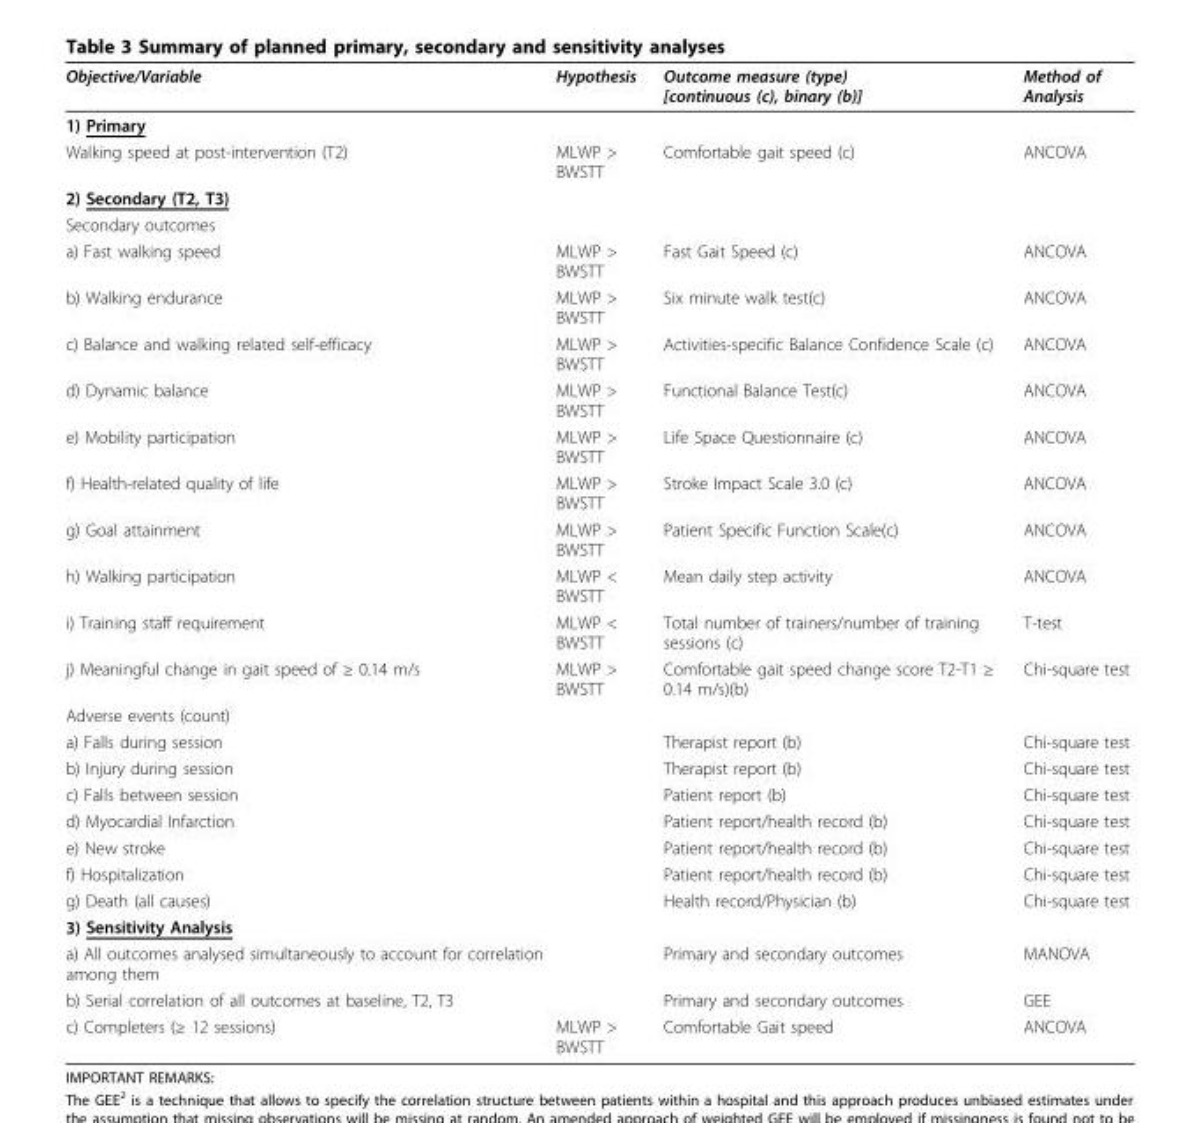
<table><thead><tr><td>Objective/Variable</td><td>Hypothesis</td><td>Outcome measure (type) [continuous (c), binary (b)]</td><td>Method of Analysis</td></tr></thead><tbody><tr><td colspan="4">1) Primary</td></tr><tr><td>Walking speed at post-intervention (T2)</td><td>MLWP &gt; BWSTT</td><td>Comfortable gait speed (c)</td><td>ANCOVA</td></tr><tr><td colspan="4">2) Secondary (T2, T3)</td></tr><tr><td colspan="4">Secondary outcomes</td></tr><tr><td>a) Fast walking speed</td><td>MLWP &gt; BWSTT</td><td>Fast Gait Speed (c)</td><td>ANCOVA</td></tr><tr><td>b) Walking endurance</td><td>MLWP &gt; BWSTT</td><td>Six minute walk test(c)</td><td>ANCOVA</td></tr><tr><td>c) Balance and walking related self-efficacy</td><td>MLWP &gt; BWSTT</td><td>Activities-specific Balance Confidence Scale (c)</td><td>ANCOVA</td></tr><tr><td>d) Dynamic balance</td><td>MLWP &gt; BWSTT</td><td>Functional Balance Test(c)</td><td>ANCOVA</td></tr><tr><td>e) Mobility participation</td><td>MLWP &gt; BWSTT</td><td>Life Space Questionnaire (c)</td><td>ANCOVA</td></tr><tr><td>f) Health-related quality of life</td><td>MLWP &gt; BWSTT</td><td>Stroke Impact Scale 3.0 (c)</td><td>ANCOVA</td></tr><tr><td>g) Goal attainment</td><td>MLWP &gt; BWSTT</td><td>Patient Specific Function Scale(c)</td><td>ANCOVA</td></tr><tr><td>h) Walking participation</td><td>MLWP &lt; BWSTT</td><td>Mean daily step activity</td><td>ANCOVA</td></tr><tr><td>i) Training staff requirement</td><td>MLWP &lt; BWSTT</td><td>Total number of trainers/number of training sessions (c)</td><td>T-test</td></tr><tr><td>j) Meaningful change in gait speed of ≥ 0.14 m/s</td><td>MLWP &gt; BWSTT</td><td>Comfortable gait speed change score T2-T1 ≥ 0.14 m/s)(b)</td><td>Chi-square test</td></tr><tr><td colspan="4">Adverse events (count)</td></tr><tr><td>a) Falls during session</td><td></td><td>Therapist report (b)</td><td>Chi-square test</td></tr><tr><td>b) Injury during session</td><td></td><td>Therapist report (b)</td><td>Chi-square test</td></tr><tr><td>c) Falls between session</td><td></td><td>Patient report (b)</td><td>Chi-square test</td></tr><tr><td>d) Myocardial Infarction</td><td></td><td>Patient report/health record (b)</td><td>Chi-square test</td></tr><tr><td>e) New stroke</td><td></td><td>Patient report/health record (b)</td><td>Chi-square test</td></tr><tr><td>f) Hospitalization</td><td></td><td>Patient report/health record (b)</td><td>Chi-square test</td></tr><tr><td>g) Death (all causes)</td><td></td><td>Health record/Physician (b)</td><td>Chi-square test</td></tr><tr><td colspan="4">3) Sensitivity Analysis</td></tr><tr><td>a) All outcomes analysed simultaneously to account for correlation among them</td><td></td><td>Primary and secondary outcomes</td><td>MANOVA</td></tr><tr><td>b) Serial correlation of all outcomes at baseline, T2, T3</td><td></td><td>Primary and secondary outcomes</td><td>GEE</td></tr><tr><td>c) Completers (≥ 12 sessions)</td><td>MLWP &gt; BWSTT</td><td>Comfortable Gait speed</td><td>ANCOVA</td></tr></tbody></table>